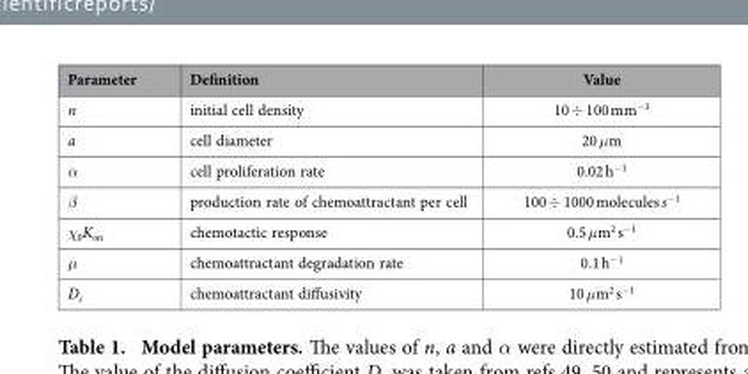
<table><thead><tr><td>Parameter</td><td>Definition</td><td>Value</td></tr></thead><tbody><tr><td>n</td><td>initial cell density</td><td>10 ÷ 100 mm<sup>−3</sup></td></tr><tr><td>a</td><td>cell diameter</td><td>20 μm</td></tr><tr><td>α</td><td>cell proliferation rate</td><td>0.02 h<sup>−1</sup></td></tr><tr><td>β</td><td>production rate of chemoattractant per cell</td><td>100 ÷ 1000 molecules s<sup>−1</sup></td></tr><tr><td>χ<sub>0</sub>K<sub>on</sub></td><td>chemotactic response</td><td>0.5 μm<sup>2</sup> s<sup>−1</sup></td></tr><tr><td>μ</td><td>chemoattractant degradation rate</td><td>0.1 h<sup>−1</sup></td></tr><tr><td>D<sub>c</sub></td><td>chemoattractant diffusivity</td><td>10 μm<sup>2</sup> s<sup>−1</sup></td></tr></tbody></table>